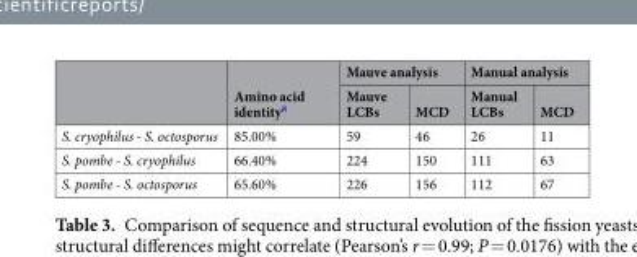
<table><thead><tr><td rowspan="2"></td><td rowspan="2">Amino acid identity<sup>8</sup></td><td colspan="2">Mauve analysis</td><td colspan="2">Manual analysis</td></tr><tr><td>Mauve LCBs</td><td>MCD</td><td>Manual LCBs</td><td>MCD</td></tr></thead><tbody><tr><td>S. cryophilus - S. octosporus</td><td>85.00%</td><td>59</td><td>46</td><td>26</td><td>11</td></tr><tr><td>S. pombe - S. cryophilus</td><td>66.40%</td><td>224</td><td>150</td><td>111</td><td>63</td></tr><tr><td>S. pombe - S. octosporus</td><td>65.60%</td><td>226</td><td>156</td><td>112</td><td>67</td></tr></tbody></table>